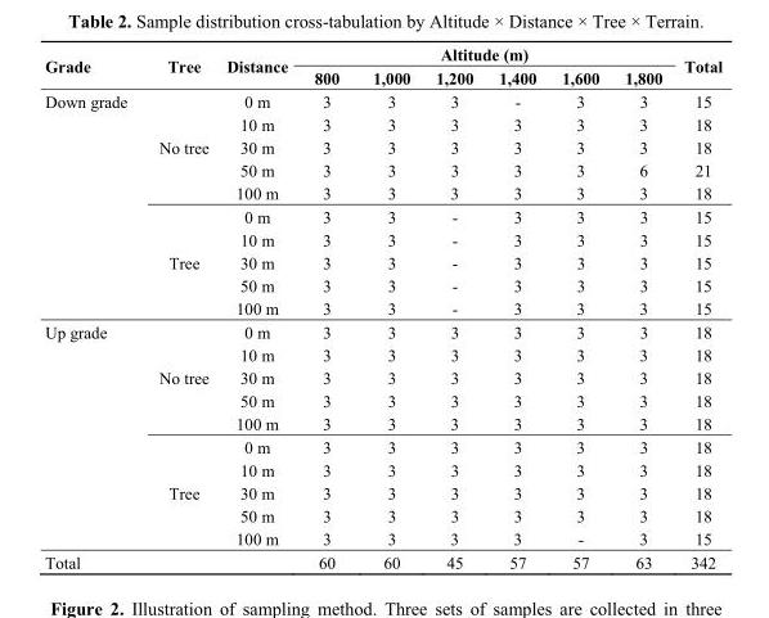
<table><thead><tr><td rowspan="2">Grade</td><td rowspan="2">Tree</td><td rowspan="2">Distance</td><td colspan="6">Altitude (m)</td><td rowspan="2">Total</td></tr><tr><td>800</td><td>1,000</td><td>1,200</td><td>1,400</td><td>1,600</td><td>1,800</td></tr></thead><tbody><tr><td rowspan="10">Down grade</td><td rowspan="5">No tree</td><td>0 m</td><td>3</td><td>3</td><td>3</td><td>-</td><td>3</td><td>3</td><td>15</td></tr><tr><td>10 m</td><td>3</td><td>3</td><td>3</td><td>3</td><td>3</td><td>3</td><td>18</td></tr><tr><td>30 m</td><td>3</td><td>3</td><td>3</td><td>3</td><td>3</td><td>3</td><td>18</td></tr><tr><td>50 m</td><td>3</td><td>3</td><td>3</td><td>3</td><td>3</td><td>6</td><td>21</td></tr><tr><td>100 m</td><td>3</td><td>3</td><td>3</td><td>3</td><td>3</td><td>3</td><td>18</td></tr><tr><td rowspan="5">Tree</td><td>0 m</td><td>3</td><td>3</td><td>-</td><td>3</td><td>3</td><td>3</td><td>15</td></tr><tr><td>10 m</td><td>3</td><td>3</td><td>-</td><td>3</td><td>3</td><td>3</td><td>15</td></tr><tr><td>30 m</td><td>3</td><td>3</td><td>-</td><td>3</td><td>3</td><td>3</td><td>15</td></tr><tr><td>50 m</td><td>3</td><td>3</td><td>-</td><td>3</td><td>3</td><td>3</td><td>15</td></tr><tr><td>100 m</td><td>3</td><td>3</td><td>-</td><td>3</td><td>3</td><td>3</td><td>15</td></tr><tr><td rowspan="10">Up grade</td><td rowspan="5">No tree</td><td>0 m</td><td>3</td><td>3</td><td>3</td><td>3</td><td>3</td><td>3</td><td>18</td></tr><tr><td>10 m</td><td>3</td><td>3</td><td>3</td><td>3</td><td>3</td><td>3</td><td>18</td></tr><tr><td>30 m</td><td>3</td><td>3</td><td>3</td><td>3</td><td>3</td><td>3</td><td>18</td></tr><tr><td>50 m</td><td>3</td><td>3</td><td>3</td><td>3</td><td>3</td><td>3</td><td>18</td></tr><tr><td>100 m</td><td>3</td><td>3</td><td>3</td><td>3</td><td>3</td><td>3</td><td>18</td></tr><tr><td rowspan="5">Tree</td><td>0 m</td><td>3</td><td>3</td><td>3</td><td>3</td><td>3</td><td>3</td><td>18</td></tr><tr><td>10 m</td><td>3</td><td>3</td><td>3</td><td>3</td><td>3</td><td>3</td><td>18</td></tr><tr><td>30 m</td><td>3</td><td>3</td><td>3</td><td>3</td><td>3</td><td>3</td><td>18</td></tr><tr><td>50 m</td><td>3</td><td>3</td><td>3</td><td>3</td><td>3</td><td>3</td><td>18</td></tr><tr><td>100 m</td><td>3</td><td>3</td><td>3</td><td>3</td><td>-</td><td>3</td><td>15</td></tr><tr><td colspan="3">Total</td><td>60</td><td>60</td><td>45</td><td>57</td><td>57</td><td>63</td><td>342</td></tr></tbody></table>